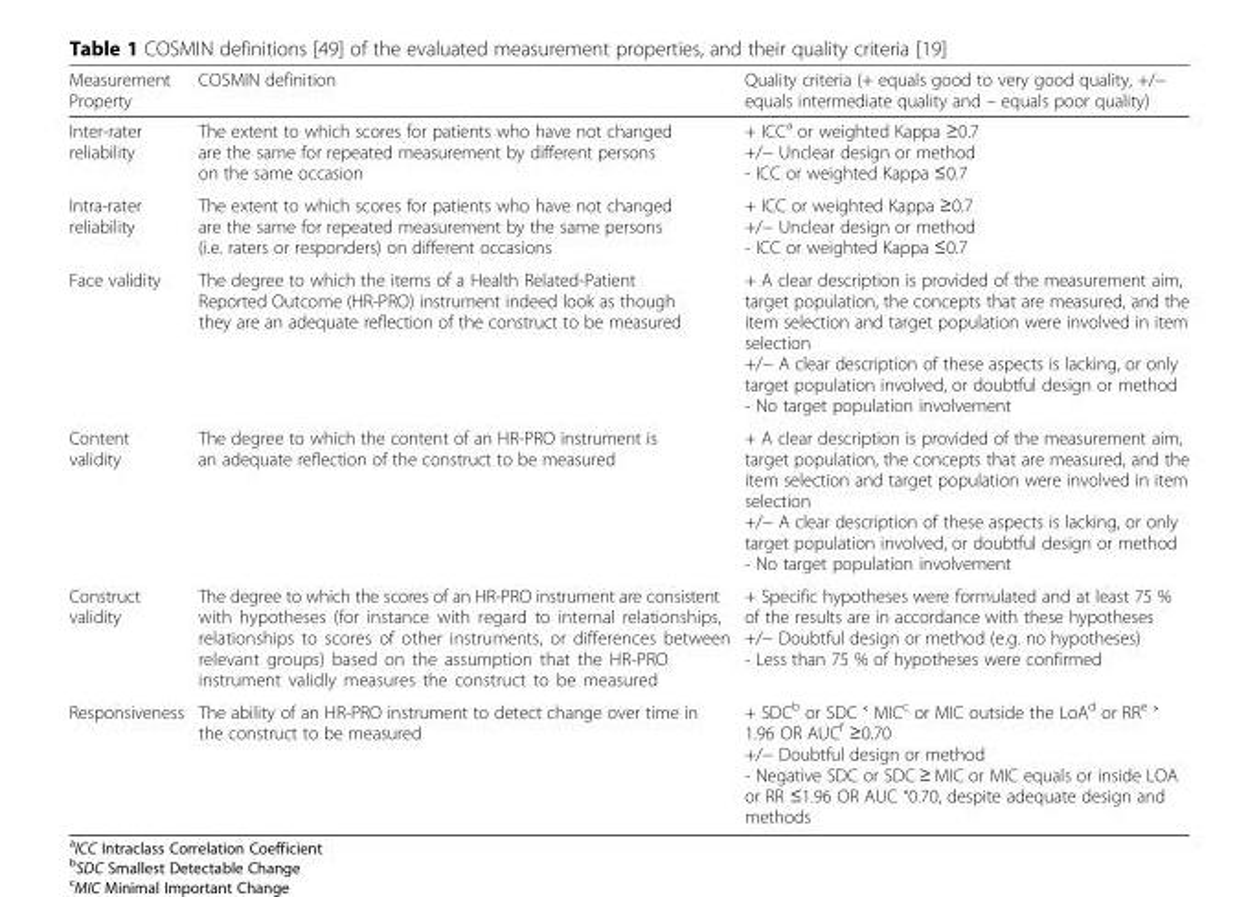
<table><thead><tr><td>Measurement Property</td><td>COSMIN definition</td><td>Quality criteria (+ equals good to very good quality, +/− equals intermediate quality and – equals poor quality)</td></tr></thead><tbody><tr><td>Inter-rater reliability</td><td>The extent to which scores for patients who have not changed are the same for repeated measurement by different persons on the same occasion</td><td>+ ICC<sup>a</sup> or weighted Kappa ≥0.7 +/− Unclear design or method - ICC or weighted Kappa ≤0.7</td></tr><tr><td>Intra-rater reliability</td><td>The extent to which scores for patients who have not changed are the same for repeated measurement by the same persons (i.e. raters or responders) on different occasions</td><td>+ ICC or weighted Kappa ≥0.7 +/− Unclear design or method - ICC or weighted Kappa ≤0.7</td></tr><tr><td>Face validity</td><td>The degree to which the items of a Health Related-Patient Reported Outcome (HR-PRO) instrument indeed look as though they are an adequate reflection of the construct to be measured</td><td>+ A clear description is provided of the measurement aim, target population, the concepts that are measured, and the item selection and target population were involved in item selection +/− A clear description of these aspects is lacking, or only target population involved, or doubtful design or method - No target population involvement</td></tr><tr><td>Content validity</td><td>The degree to which the content of an HR-PRO instrument is an adequate reflection of the construct to be measured</td><td>+ A clear description is provided of the measurement aim, target population, the concepts that are measured, and the item selection and target population were involved in item selection +/− A clear description of these aspects is lacking, or only target population involved, or doubtful design or method - No target population involvement</td></tr><tr><td>Construct validity</td><td>The degree to which the scores of an HR-PRO instrument are consistent with hypotheses (for instance with regard to internal relationships, relationships to scores of other instruments, or differences between relevant groups) based on the assumption that the HR-PRO instrument validly measures the construct to be measured</td><td>+ Specific hypotheses were formulated and at least 75 % of the results are in accordance with these hypotheses +/− Doubtful design or method (e.g. no hypotheses) - Less than 75 % of hypotheses were confirmed</td></tr><tr><td>Responsiveness</td><td>The ability of an HR-PRO instrument to detect change over time in the construct to be measured</td><td>+ SDC<sup>b</sup> or SDC ˂ MIC<sup>c</sup> or MIC outside the LoA<sup>d</sup> or RR<sup>e</sup> ˃ 1.96 OR AUC<sup>f</sup> ≥0.70 +/− Doubtful design or method - Negative SDC or SDC ≥ MIC or MIC equals or inside LOA or RR ≤1.96 OR AUC ˂0.70, despite adequate design and methods</td></tr></tbody></table>